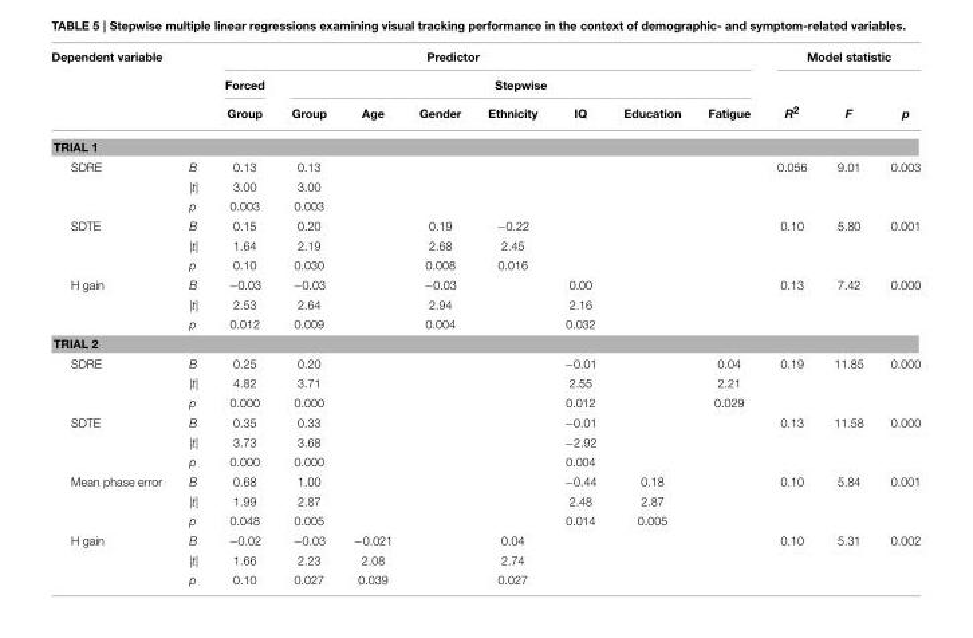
<table><thead><tr><td rowspan="3">Dependent variable</td><td rowspan="3"></td><td colspan="7">Predictor</td><td></td><td colspan="3">Model statistic</td></tr><tr><td rowspan="2">Forced Group</td><td colspan="7">Stepwise</td><td rowspan="2">R<sup>2</sup></td><td rowspan="2">F</td><td rowspan="2">p</td></tr><tr><td>Group</td><td>Age</td><td>Gender</td><td>Ethnicity</td><td>IQ</td><td>Education</td><td>Fatigue</td></tr></thead><tbody><tr><td colspan="13">TRIAL 1</td></tr><tr><td rowspan="3">SDRE</td><td>B</td><td>0.13</td><td>0.13</td><td></td><td></td><td></td><td></td><td></td><td></td><td>0.056</td><td>9.01</td><td>0.003</td></tr><tr><td>|t|</td><td>3.00</td><td>3.00</td><td></td><td></td><td></td><td></td><td></td><td></td><td></td><td></td><td></td></tr><tr><td>p</td><td>0.003</td><td>0.003</td><td></td><td></td><td></td><td></td><td></td><td></td><td></td><td></td><td></td></tr><tr><td rowspan="3">SDTE</td><td>B</td><td>0.15</td><td>0.20</td><td></td><td>0.19</td><td>−0.22</td><td></td><td></td><td></td><td>0.10</td><td>5.80</td><td>0.001</td></tr><tr><td>|t|</td><td>1.64</td><td>2.19</td><td></td><td>2.68</td><td>2.45</td><td></td><td></td><td></td><td></td><td></td><td></td></tr><tr><td>p</td><td>0.10</td><td>0.030</td><td></td><td>0.008</td><td>0.016</td><td></td><td></td><td></td><td></td><td></td><td></td></tr><tr><td rowspan="3">H gain</td><td>B</td><td>−0.03</td><td>−0.03</td><td></td><td>−0.03</td><td></td><td>0.00</td><td></td><td></td><td>0.13</td><td>7.42</td><td>0.000</td></tr><tr><td>|t|</td><td>2.53</td><td>2.64</td><td></td><td>2.94</td><td></td><td>2.16</td><td></td><td></td><td></td><td></td><td></td></tr><tr><td>p</td><td>0.012</td><td>0.009</td><td></td><td>0.004</td><td></td><td>0.032</td><td></td><td></td><td></td><td></td><td></td></tr><tr><td colspan="13">TRIAL 2</td></tr><tr><td rowspan="3">SDRE</td><td>B</td><td>0.25</td><td>0.20</td><td></td><td></td><td></td><td>−0.01</td><td></td><td>0.04</td><td>0.19</td><td>11.85</td><td>0.000</td></tr><tr><td>|t|</td><td>4.82</td><td>3.71</td><td></td><td></td><td></td><td>2.55</td><td></td><td>2.21</td><td></td><td></td><td></td></tr><tr><td>p</td><td>0.000</td><td>0.000</td><td></td><td></td><td></td><td>0.012</td><td></td><td>0.029</td><td></td><td></td><td></td></tr><tr><td rowspan="3">SDTE</td><td>B</td><td>0.35</td><td>0.33</td><td></td><td></td><td></td><td>−0.01</td><td></td><td></td><td>0.13</td><td>11.58</td><td>0.000</td></tr><tr><td>|t|</td><td>3.73</td><td>3.68</td><td></td><td></td><td></td><td>−2.92</td><td></td><td></td><td></td><td></td><td></td></tr><tr><td>p</td><td>0.000</td><td>0.000</td><td></td><td></td><td></td><td>0.004</td><td></td><td></td><td></td><td></td><td></td></tr><tr><td rowspan="3">Mean phase error</td><td>B</td><td>0.68</td><td>1.00</td><td></td><td></td><td></td><td>−0.44</td><td>0.18</td><td></td><td>0.10</td><td>5.84</td><td>0.001</td></tr><tr><td>|t|</td><td>1.99</td><td>2.87</td><td></td><td></td><td></td><td>2.48</td><td>2.87</td><td></td><td></td><td></td><td></td></tr><tr><td>p</td><td>0.048</td><td>0.005</td><td></td><td></td><td></td><td>0.014</td><td>0.005</td><td></td><td></td><td></td><td></td></tr><tr><td rowspan="3">H gain</td><td>B</td><td>−0.02</td><td>−0.03</td><td>−0.021</td><td></td><td>0.04</td><td></td><td></td><td></td><td>0.10</td><td>5.31</td><td>0.002</td></tr><tr><td>|t|</td><td>1.66</td><td>2.23</td><td>2.08</td><td></td><td>2.74</td><td></td><td></td><td></td><td></td><td></td><td></td></tr><tr><td>p</td><td>0.10</td><td>0.027</td><td>0.039</td><td></td><td>0.027</td><td></td><td></td><td></td><td></td><td></td><td></td></tr></tbody></table>